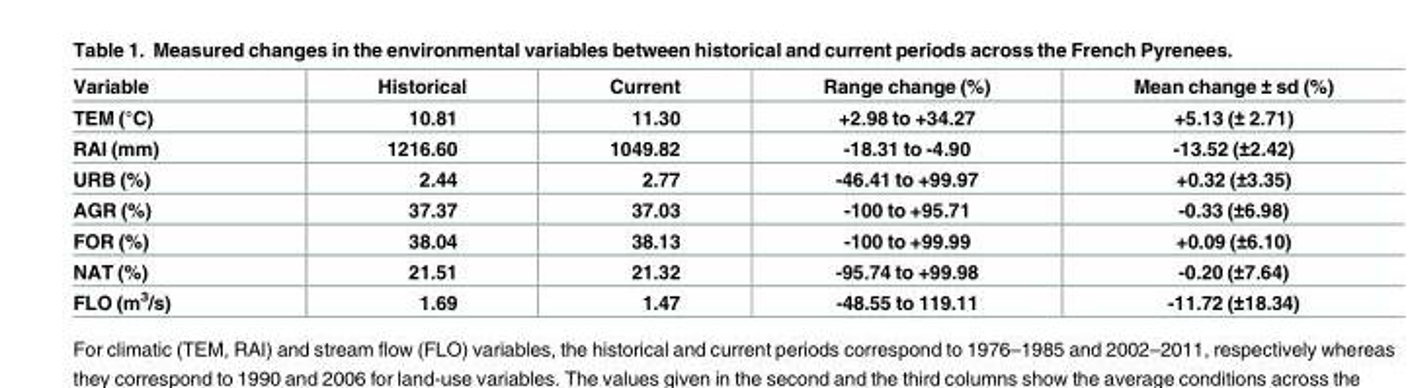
<table><thead><tr><td>Variable</td><td>Historical</td><td>Current</td><td>Range change (%)</td><td>Mean change ± sd (%)</td></tr></thead><tbody><tr><td>TEM (°C)</td><td>10.81</td><td>11.30</td><td>+2.98 to +34.27</td><td>+5.13 (± 2.71)</td></tr><tr><td>RAI (mm)</td><td>1216.60</td><td>1049.82</td><td>-18.31 to -4.90</td><td>-13.52 (±2.42)</td></tr><tr><td>URB (%)</td><td>2.44</td><td>2.77</td><td>-46.41 to +99.97</td><td>+0.32 (±3.35)</td></tr><tr><td>AGR (%)</td><td>37.37</td><td>37.03</td><td>-100 to +95.71</td><td>-0.33 (±6.98)</td></tr><tr><td>FOR (%)</td><td>38.04</td><td>38.13</td><td>-100 to +99.99</td><td>+0.09 (±6.10)</td></tr><tr><td>NAT (%)</td><td>21.51</td><td>21.32</td><td>-95.74 to +99.98</td><td>-0.20 (±7.64)</td></tr><tr><td>FLO (m<sup>3</sup>/s)</td><td>1.69</td><td>1.47</td><td>-48.55 to 119.11</td><td>-11.72 (±18.34)</td></tr></tbody></table>